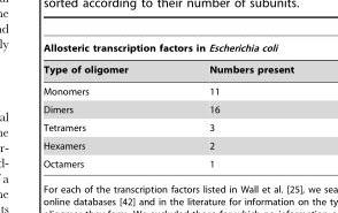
<table><thead><tr><td colspan="2">Allosteric transcription factors in Escherichia coli</td></tr><tr><td>Type of oligomer</td><td>Numbers present</td></tr></thead><tbody><tr><td>Monomers</td><td>11</td></tr><tr><td>Dimers</td><td>16</td></tr><tr><td>Tetramers</td><td>3</td></tr><tr><td>Hexamers</td><td>2</td></tr><tr><td>Octamers</td><td>1</td></tr></tbody></table>